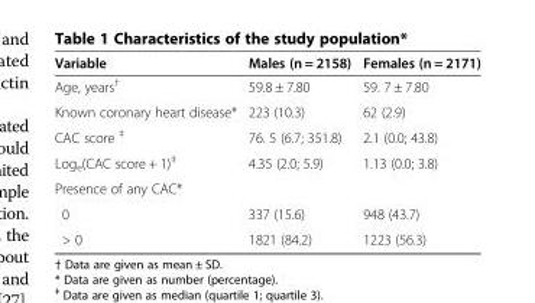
<table><thead><tr><td>Variable</td><td>Males (n = 2158)</td><td>Females (n = 2171)</td></tr></thead><tbody><tr><td>Age, years<sup>†</sup></td><td>59.8 ± 7.80</td><td>59. 7 ± 7.80</td></tr><tr><td>Known coronary heart disease*</td><td>223 (10.3)</td><td>62 (2.9)</td></tr><tr><td>CAC score <sup>‡</sup></td><td>76. 5 (6.7; 351.8)</td><td>2.1 (0.0; 43.8)</td></tr><tr><td>Log<sub>e</sub>(CAC score + 1)<sup>‡</sup></td><td>4.35 (2.0; 5.9)</td><td>1.13 (0.0; 3.8)</td></tr><tr><td colspan="3">Presence of any CAC*</td></tr><tr><td>0</td><td>337 (15.6)</td><td>948 (43.7)</td></tr><tr><td>&gt; 0</td><td>1821 (84.2)</td><td>1223 (56.3)</td></tr></tbody></table>